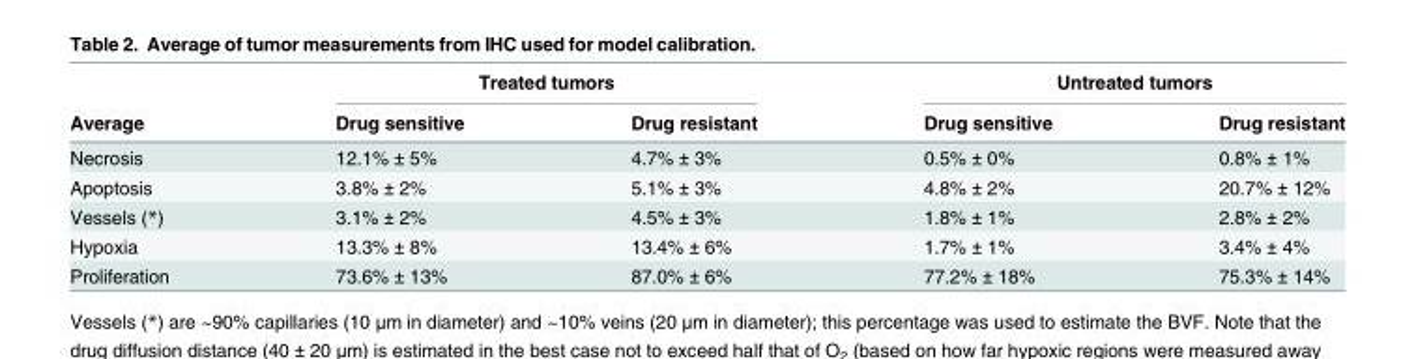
<table><thead><tr><td rowspan="2">Average</td><td colspan="2">Treated tumors</td><td colspan="2">Untreated tumors</td></tr><tr><td>Drug sensitive</td><td>Drug resistant</td><td>Drug sensitive</td><td>Drug resistant</td></tr></thead><tbody><tr><td>Necrosis</td><td>12.1% ± 5%</td><td>4.7% ± 3%</td><td>0.5% ± 0%</td><td>0.8% ± 1%</td></tr><tr><td>Apoptosis</td><td>3.8% ± 2%</td><td>5.1% ± 3%</td><td>4.8% ± 2%</td><td>20.7% ± 12%</td></tr><tr><td>Vessels (*)</td><td>3.1% ± 2%</td><td>4.5% ± 3%</td><td>1.8% ± 1%</td><td>2.8% ± 2%</td></tr><tr><td>Hypoxia</td><td>13.3% ± 8%</td><td>13.4% ± 6%</td><td>1.7% ± 1%</td><td>3.4% ± 4%</td></tr><tr><td>Proliferation</td><td>73.6% ± 13%</td><td>87.0% ± 6%</td><td>77.2% ± 18%</td><td>75.3% ± 14%</td></tr></tbody></table>